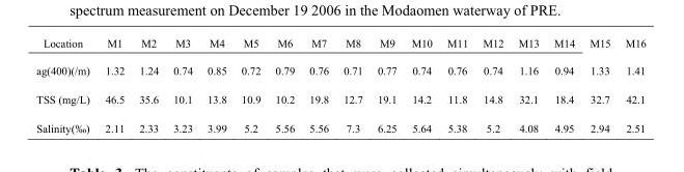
<table><thead><tr><td>Location</td><td>M1</td><td>M2</td><td>M3</td><td>M4</td><td>M5</td><td>M6</td><td>M7</td><td>M8</td><td>M9</td><td>M10</td><td>M11</td><td>M12</td><td>M13</td><td>M14</td><td>M15</td><td>M16</td></tr></thead><tbody><tr><td>ag(400)(/m)</td><td>1.32</td><td>1.24</td><td>0.74</td><td>0.85</td><td>0.72</td><td>0.79</td><td>0.76</td><td>0.71</td><td>0.77</td><td>0.74</td><td>0.76</td><td>0.74</td><td>1.16</td><td>0.94</td><td>1.33</td><td>1.41</td></tr><tr><td>TSS (mg/L)</td><td>46.5</td><td>35.6</td><td>10.1</td><td>13.8</td><td>10.9</td><td>10.2</td><td>19.8</td><td>12.7</td><td>19.1</td><td>14.2</td><td>11.8</td><td>14.8</td><td>32.1</td><td>18.4</td><td>32.7</td><td>42.1</td></tr><tr><td>Salinity(‰)</td><td>2.11</td><td>2.33</td><td>3.23</td><td>3.99</td><td>5.2</td><td>5.56</td><td>5.56</td><td>7.3</td><td>6.25</td><td>5.64</td><td>5.38</td><td>5.2</td><td>4.08</td><td>4.95</td><td>2.94</td><td>2.51</td></tr></tbody></table>